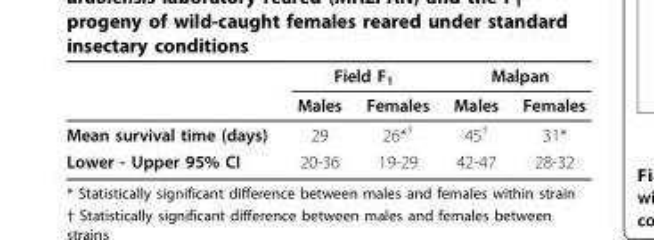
<table><thead><tr><td rowspan="2"></td><td colspan="2">Field F<sub>1</sub></td><td colspan="2">Malpan</td></tr><tr><td>Males</td><td>Females</td><td>Males</td><td>Females</td></tr></thead><tbody><tr><td>Mean survival time (days)</td><td>29</td><td>26*<sup>†</sup></td><td>45<sup>†</sup></td><td>31*</td></tr><tr><td>Lower - Upper 95% CI</td><td>20-36</td><td>19-29</td><td>42-47</td><td>28-32</td></tr></tbody></table>